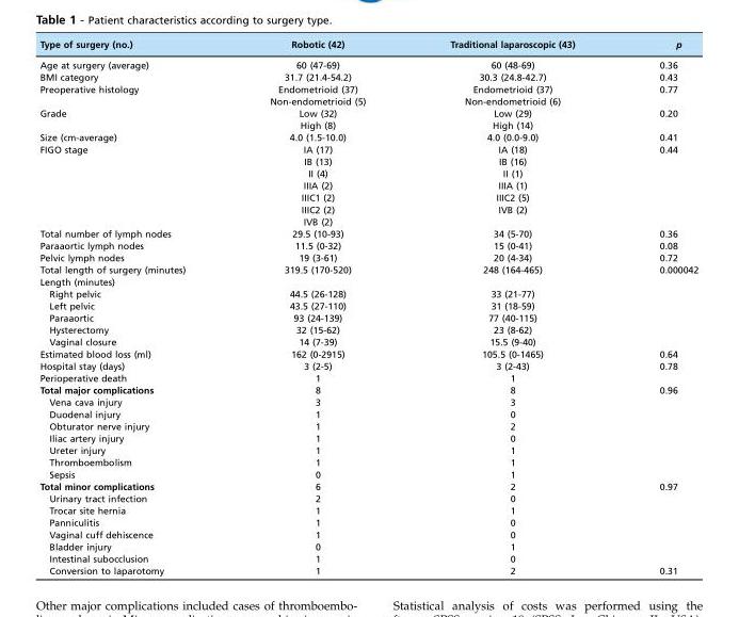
<table><thead><tr><td>Type of surgery (no.)</td><td>Robotic (42)</td><td>Traditional laparoscopic (43)</td><td>p</td></tr></thead><tbody><tr><td>Age at surgery (average)</td><td>60 (47-69)</td><td>60 (48-69)</td><td>0.36</td></tr><tr><td>BMI category</td><td>31.7 (21.4-54.2)</td><td>30.3 (24.8-42.7)</td><td>0.43</td></tr><tr><td rowspan="2">Preoperative histology</td><td>Endometrioid (37)</td><td>Endometrioid (37)</td><td>0.77</td></tr><tr><td>Non-endometrioid (5)</td><td>Non-endometrioid (6)</td><td></td></tr><tr><td rowspan="2">Grade</td><td>Low (32)</td><td>Low (29)</td><td>0.20</td></tr><tr><td>High (8)</td><td>High (14)</td><td></td></tr><tr><td>Size (cm-average)</td><td>4.0 (1.5-10.0)</td><td>4.0 (0.0-9.0)</td><td>0.41</td></tr><tr><td rowspan="7">FIGO stage</td><td>IA (17)</td><td>IA (18)</td><td>0.44</td></tr><tr><td>IB (13)</td><td>IB (16)</td><td></td></tr><tr><td>II (4)</td><td>II (1)</td><td></td></tr><tr><td>IIIA (2)</td><td>IIIA (1)</td><td></td></tr><tr><td>IIIC1 (2)</td><td>IIIC2 (5)</td><td></td></tr><tr><td>IIIC2 (2)</td><td>IVB (2)</td><td></td></tr><tr><td>IVB (2)</td><td></td><td></td></tr><tr><td>Total number of lymph nodes</td><td>29.5 (10-93)</td><td>34 (5-70)</td><td>0.36</td></tr><tr><td>Paraaortic lymph nodes</td><td>11.5 (0-32)</td><td>15 (0-41)</td><td>0.08</td></tr><tr><td>Pelvic lymph nodes</td><td>19 (3-61)</td><td>20 (4-34)</td><td>0.72</td></tr><tr><td>Total length of surgery (minutes)</td><td>319.5 (170-520)</td><td>248 (164-465)</td><td>0.000042</td></tr><tr><td colspan="4">Length (minutes)</td></tr><tr><td>Right pelvic</td><td>44.5 (26-128)</td><td>33 (21-77)</td><td></td></tr><tr><td>Left pelvic</td><td>43.5 (27-110)</td><td>31 (18-59)</td><td></td></tr><tr><td>Paraaortic</td><td>93 (24-139)</td><td>77 (40-115)</td><td></td></tr><tr><td>Hysterectomy</td><td>32 (15-62)</td><td>23 (8-62)</td><td></td></tr><tr><td>Vaginal closure</td><td>14 (7-39)</td><td>15.5 (9-40)</td><td></td></tr><tr><td>Estimated blood loss (ml)</td><td>162 (0-2915)</td><td>105.5 (0-1465)</td><td>0.64</td></tr><tr><td>Hospital stay (days)</td><td>3 (2-5)</td><td>3 (2-43)</td><td>0.78</td></tr><tr><td>Perioperative death</td><td>1</td><td>1</td><td></td></tr><tr><td>Total major complications</td><td>8</td><td>8</td><td>0.96</td></tr><tr><td>Vena cava injury</td><td>3</td><td>3</td><td></td></tr><tr><td>Duodenal injury</td><td>1</td><td>0</td><td></td></tr><tr><td>Obturator nerve injury</td><td>1</td><td>2</td><td></td></tr><tr><td>Iliac artery injury</td><td>1</td><td>0</td><td></td></tr><tr><td>Ureter injury</td><td>1</td><td>1</td><td></td></tr><tr><td>Thromboembolism</td><td>1</td><td>1</td><td></td></tr><tr><td>Sepsis</td><td>0</td><td>1</td><td></td></tr><tr><td>Total minor complications</td><td>6</td><td>2</td><td>0.97</td></tr><tr><td>Urinary tract infection</td><td>2</td><td>0</td><td></td></tr><tr><td>Trocar site hernia</td><td>1</td><td>1</td><td></td></tr><tr><td>Panniculitis</td><td>1</td><td>0</td><td></td></tr><tr><td>Vaginal cuff dehiscence</td><td>1</td><td>0</td><td></td></tr><tr><td>Bladder injury</td><td>0</td><td>1</td><td></td></tr><tr><td>Intestinal subocclusion</td><td>1</td><td>0</td><td></td></tr><tr><td>Conversion to laparotomy</td><td>1</td><td>2</td><td>0.31</td></tr></tbody></table>